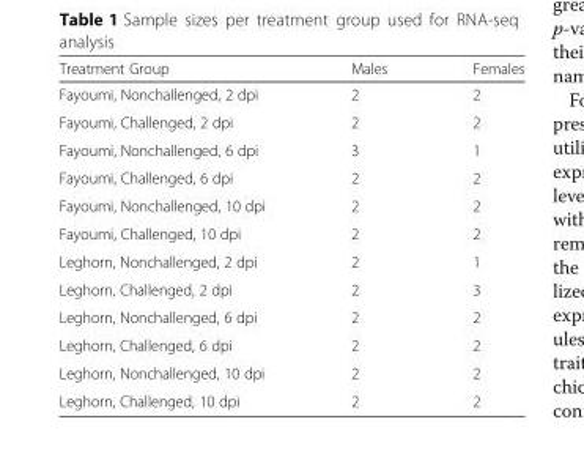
<table><thead><tr><td>Treatment Group</td><td>Males</td><td>Females</td></tr></thead><tbody><tr><td>Fayoumi, Nonchallenged, 2 dpi</td><td>2</td><td>2</td></tr><tr><td>Fayoumi, Challenged, 2 dpi</td><td>2</td><td>2</td></tr><tr><td>Fayoumi, Nonchallenged, 6 dpi</td><td>3</td><td>1</td></tr><tr><td>Fayoumi, Challenged, 6 dpi</td><td>2</td><td>2</td></tr><tr><td>Fayoumi, Nonchallenged, 10 dpi</td><td>2</td><td>2</td></tr><tr><td>Fayoumi, Challenged, 10 dpi</td><td>2</td><td>2</td></tr><tr><td>Leghorn, Nonchallenged, 2 dpi</td><td>2</td><td>1</td></tr><tr><td>Leghorn, Challenged, 2 dpi</td><td>2</td><td>3</td></tr><tr><td>Leghorn, Nonchallenged, 6 dpi</td><td>2</td><td>2</td></tr><tr><td>Leghorn, Challenged, 6 dpi</td><td>2</td><td>2</td></tr><tr><td>Leghorn, Nonchallenged, 10 dpi</td><td>2</td><td>2</td></tr><tr><td>Leghorn, Challenged, 10 dpi</td><td>2</td><td>2</td></tr></tbody></table>